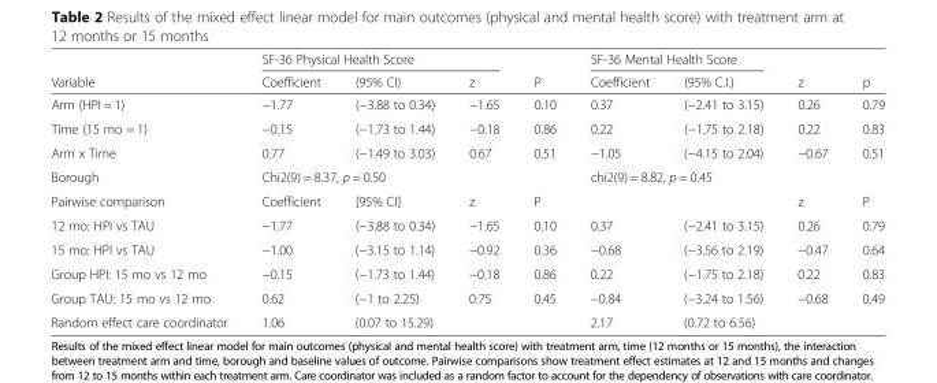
<table><thead><tr><td rowspan="2">Variable</td><td colspan="3">SF-36 Physical Health Score</td><td rowspan="2">P</td><td colspan="2">SF-36 Mental Health Score</td><td rowspan="2">z</td><td rowspan="2">p</td></tr><tr><td>Coefficient</td><td>(95% CI)</td><td>z</td><td>Coefficient</td><td>(95% C.I.)</td></tr></thead><tbody><tr><td>Arm (HPI = 1)</td><td>−1.77</td><td>(−3.88 to 0.34)</td><td>−1.65</td><td>0.10</td><td>0.37</td><td>(−2.41 to 3.15)</td><td>0.26</td><td>0.79</td></tr><tr><td>Time (15 mo = 1)</td><td>−0.15</td><td>(−1.73 to 1.44)</td><td>−0.18</td><td>0.86</td><td>0.22</td><td>(−1.75 to 2.18)</td><td>0.22</td><td>0.83</td></tr><tr><td>Arm x Time</td><td>0.77</td><td>(−1.49 to 3.03)</td><td>0.67</td><td>0.51</td><td>−1.05</td><td>(−4.15 to 2.04)</td><td>−0.67</td><td>0.51</td></tr><tr><td>Borough</td><td colspan="2">Chi2(9) = 8.37, p = 0.50</td><td></td><td></td><td colspan="2">chi2(9) = 8.82, p = 0.45</td><td></td><td></td></tr><tr><td>Pairwise comparison</td><td>Coefficient</td><td>[95% CI]</td><td>z</td><td>P</td><td></td><td></td><td>z</td><td>P</td></tr><tr><td>12 mo: HPI vs TAU</td><td>−1.77</td><td>(−3.88 to 0.34)</td><td>−1.65</td><td>0.10</td><td>0.37</td><td>(−2.41 to 3.15)</td><td>0.26</td><td>0.79</td></tr><tr><td>15 mo: HPI vs TAU</td><td>−1.00</td><td>(−3.15 to 1.14)</td><td>−0.92</td><td>0.36</td><td>−0.68</td><td>(−3.56 to 2.19)</td><td>−0.47</td><td>0.64</td></tr><tr><td>Group HPI: 15 mo vs 12 mo</td><td>−0.15</td><td>(−1.73 to 1.44)</td><td>−0.18</td><td>0.86</td><td>0.22</td><td>(−1.75 to 2.18)</td><td>0.22</td><td>0.83</td></tr><tr><td>Group TAU: 15 mo vs 12 mo</td><td>0.62</td><td>(−1 to 2.25)</td><td>0.75</td><td>0.45</td><td>−0.84</td><td>(−3.24 to 1.56)</td><td>−0.68</td><td>0.49</td></tr><tr><td>Random effect care coordinator</td><td>1.06</td><td>(0.07 to 15.29)</td><td></td><td></td><td>2.17</td><td>(0.72 to 6.56)</td><td></td><td></td></tr></tbody></table>